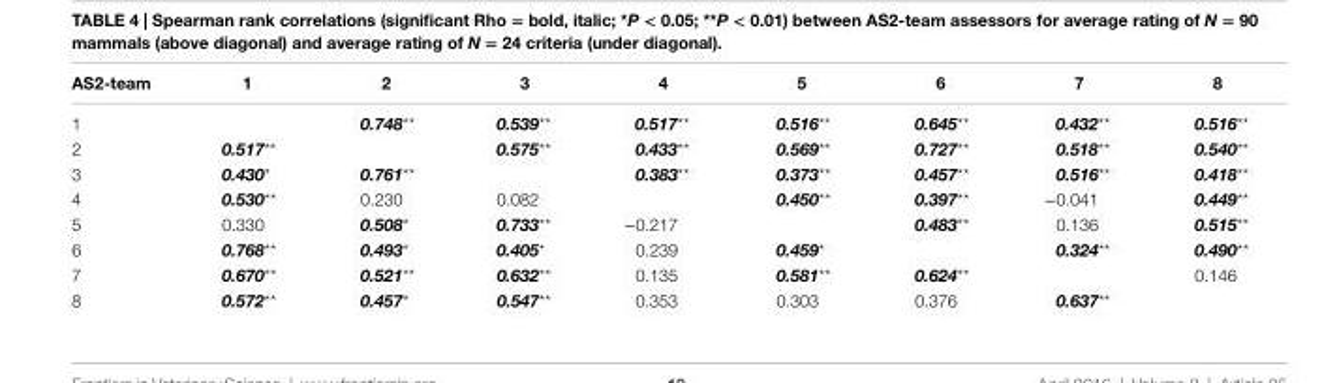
<table><thead><tr><td>as2-team</td><td>1</td><td>2</td><td>3</td><td>4</td><td>5</td><td>6</td><td>7</td><td>8</td></tr></thead><tbody><tr><td>1</td><td></td><td>0.748**</td><td>0.539**</td><td>0.517**</td><td>0.516**</td><td>0.645**</td><td>0.432**</td><td>0.516**</td></tr><tr><td>2</td><td>0.517**</td><td></td><td>0.575**</td><td>0.433**</td><td>0.569**</td><td>0.727**</td><td>0.518**</td><td>0.540**</td></tr><tr><td>3</td><td>0.430*</td><td>0.761**</td><td></td><td>0.383**</td><td>0.373**</td><td>0.457**</td><td>0.516**</td><td>0.418**</td></tr><tr><td>4</td><td>0.530**</td><td>0.230</td><td>0.082</td><td></td><td>0.450**</td><td>0.397**</td><td>−0.041</td><td>0.449**</td></tr><tr><td>5</td><td>0.330</td><td>0.508*</td><td>0.733**</td><td>−0.217</td><td></td><td>0.483**</td><td>0.136</td><td>0.515**</td></tr><tr><td>6</td><td>0.768**</td><td>0.493*</td><td>0.405*</td><td>0.239</td><td>0.459*</td><td></td><td>0.324**</td><td>0.490**</td></tr><tr><td>7</td><td>0.670**</td><td>0.521**</td><td>0.632**</td><td>0.135</td><td>0.581**</td><td>0.624**</td><td></td><td>0.146</td></tr><tr><td>8</td><td>0.572**</td><td>0.457*</td><td>0.547**</td><td>0.353</td><td>0.303</td><td>0.376</td><td>0.637**</td><td></td></tr></tbody></table>